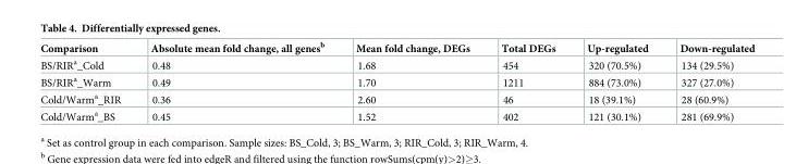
<table><thead><tr><td>Comparison</td><td>Absolute mean fold change, all genes<sup>b</sup></td><td>Mean fold change, DEGs</td><td>Total DEGs</td><td>Up-regulated</td><td>Down-regulated</td></tr></thead><tbody><tr><td>BS/RIR<sup>a</sup>_Cold</td><td>0.48</td><td>1.68</td><td>454</td><td>320 (70.5%)</td><td>134 (29.5%)</td></tr><tr><td>BS/RIR<sup>a</sup>_Warm</td><td>0.49</td><td>1.70</td><td>1211</td><td>884 (73.0%)</td><td>327 (27.0%)</td></tr><tr><td>Cold/Warm<sup>a</sup>_RIR</td><td>0.36</td><td>2.60</td><td>46</td><td>18 (39.1%)</td><td>28 (60.9%)</td></tr><tr><td>Cold/Warm<sup>a</sup>_BS</td><td>0.45</td><td>1.52</td><td>402</td><td>121 (30.1%)</td><td>281 (69.9%)</td></tr></tbody></table>